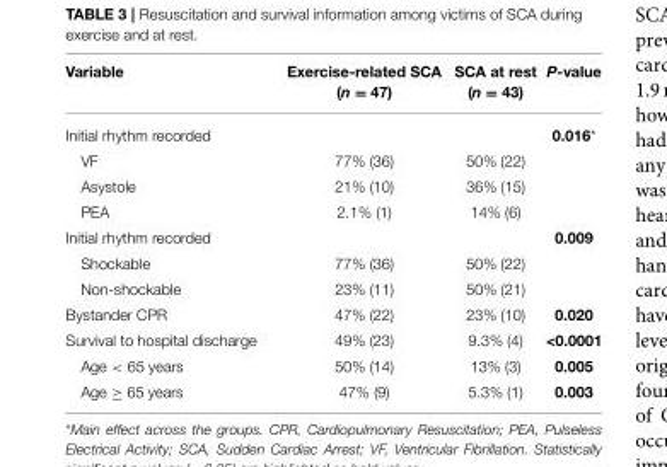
<table><thead><tr><td>Variable</td><td>Exercise-related SCA (n = 47)</td><td>SCA at rest (n = 43)</td><td>P-value</td></tr></thead><tbody><tr><td>Initial rhythm recorded</td><td></td><td></td><td>0.016*</td></tr><tr><td>VF</td><td>77% (36)</td><td>50% (22)</td><td></td></tr><tr><td>Asystole</td><td>21% (10)</td><td>36% (15)</td><td></td></tr><tr><td>PEA</td><td>2.1% (1)</td><td>14% (6)</td><td></td></tr><tr><td>Initial rhythm recorded</td><td></td><td></td><td>0.009</td></tr><tr><td>Shockable</td><td>77% (36)</td><td>50% (22)</td><td></td></tr><tr><td>Non-shockable</td><td>23% (11)</td><td>50% (21)</td><td></td></tr><tr><td>Bystander CPR</td><td>47% (22)</td><td>23% (10)</td><td>0.020</td></tr><tr><td>Survival to hospital discharge</td><td>49% (23)</td><td>9.3% (4)</td><td>&lt;0.0001</td></tr><tr><td>Age &lt; 65 years</td><td>50% (14)</td><td>13% (3)</td><td>0.005</td></tr><tr><td>Age ≥ 65 years</td><td>47% (9)</td><td>5.3% (1)</td><td>0.003</td></tr></tbody></table>